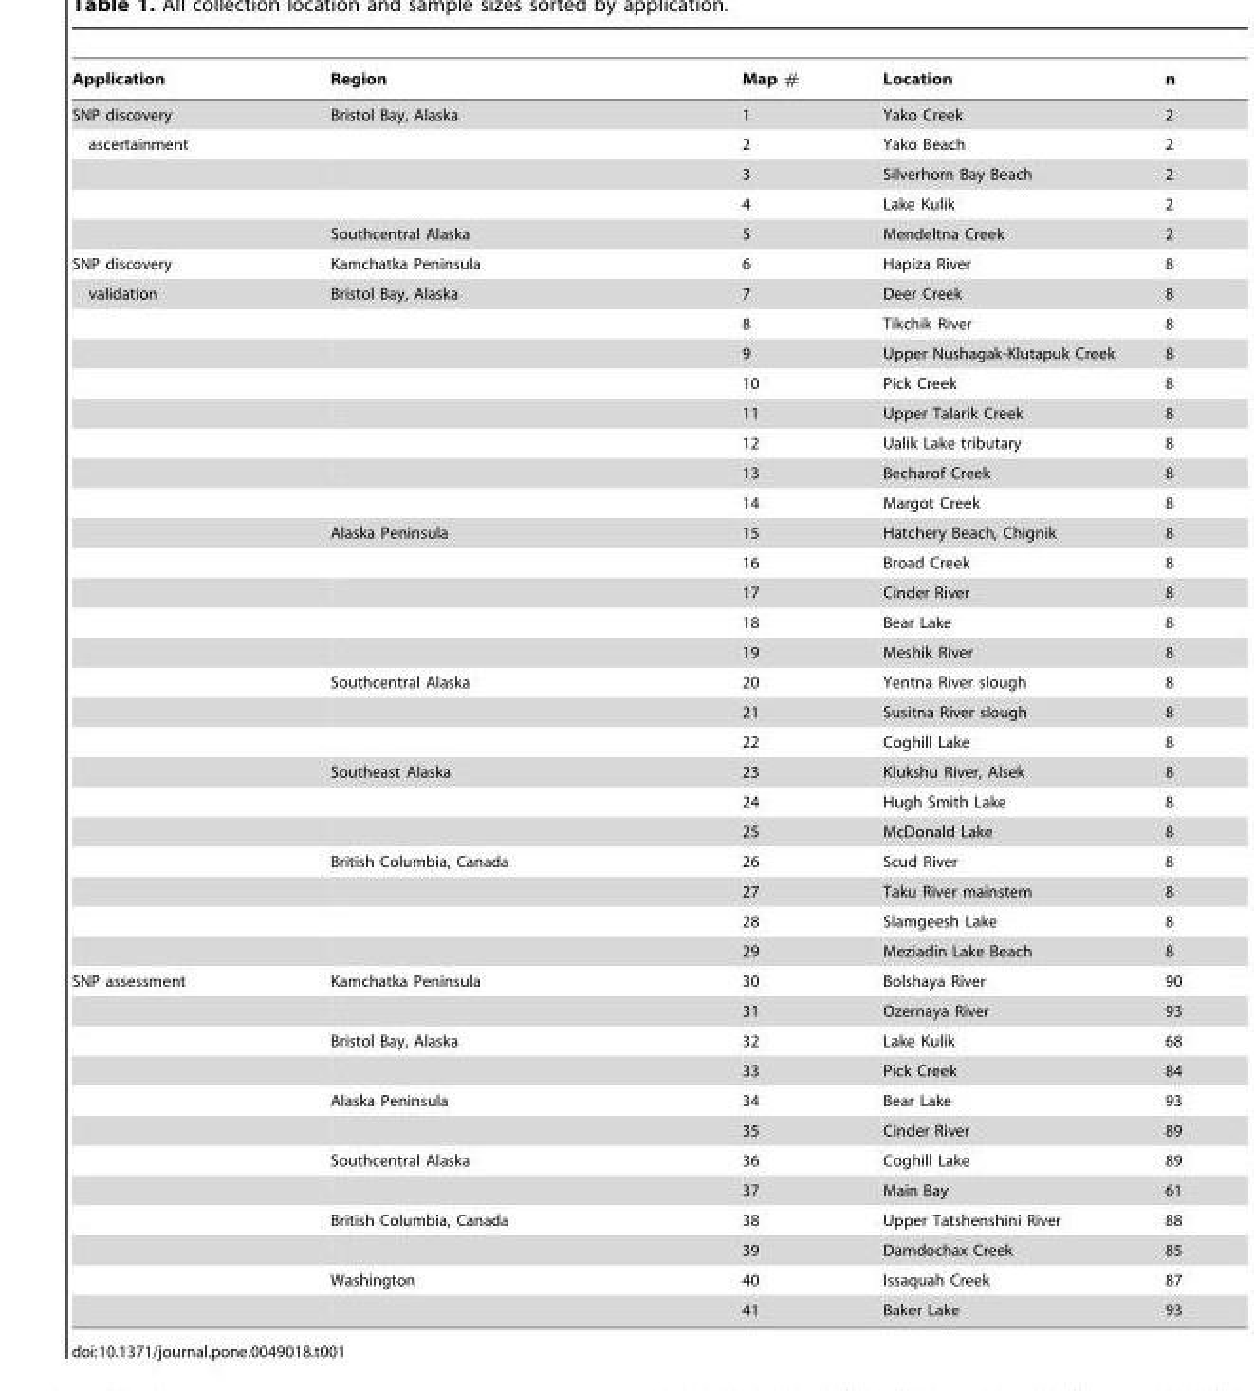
<table><thead><tr><td>Application</td><td>Region</td><td>Map #</td><td>Location</td><td>n</td></tr></thead><tbody><tr><td>SNP discovery</td><td>Bristol Bay, Alaska</td><td>1</td><td>Yako Creek</td><td>2</td></tr><tr><td colspan="2">ascertainment</td><td>2</td><td>Yako Beach</td><td>2</td></tr><tr><td></td><td></td><td>3</td><td>Silverhorn Bay Beach</td><td>2</td></tr><tr><td></td><td></td><td>4</td><td>Lake Kulik</td><td>2</td></tr><tr><td></td><td>Southcentral Alaska</td><td>5</td><td>Mendeltna Creek</td><td>2</td></tr><tr><td>SNP discovery</td><td>Kamchatka Peninsula</td><td>6</td><td>Hapiza River</td><td>8</td></tr><tr><td rowspan="23">validation</td><td>Bristol Bay, Alaska</td><td>7</td><td>Deer Creek</td><td>8</td></tr><tr><td></td><td>8</td><td>Tikchik River</td><td>8</td></tr><tr><td></td><td>9</td><td>Upper Nushagak-Klutapuk Creek</td><td>8</td></tr><tr><td></td><td>10</td><td>Pick Creek</td><td>8</td></tr><tr><td></td><td>11</td><td>Upper Talarik Creek</td><td>8</td></tr><tr><td></td><td>12</td><td>Ualik Lake tributary</td><td>8</td></tr><tr><td></td><td>13</td><td>Becharof Creek</td><td>8</td></tr><tr><td></td><td>14</td><td>Margot Creek</td><td>8</td></tr><tr><td>Alaska Peninsula</td><td>15</td><td>Hatchery Beach, Chignik</td><td>8</td></tr><tr><td></td><td>16</td><td>Broad Creek</td><td>8</td></tr><tr><td></td><td>17</td><td>Cinder River</td><td>8</td></tr><tr><td></td><td>18</td><td>Bear Lake</td><td>8</td></tr><tr><td></td><td>19</td><td>Meshik River</td><td>8</td></tr><tr><td>Southcentral Alaska</td><td>20</td><td>Yentna River slough</td><td>8</td></tr><tr><td></td><td>21</td><td>Susitna River slough</td><td>8</td></tr><tr><td></td><td>22</td><td>Coghill Lake</td><td>8</td></tr><tr><td>Southeast Alaska</td><td>23</td><td>Klukshu River, Alsek</td><td>8</td></tr><tr><td></td><td>24</td><td>Hugh Smith Lake</td><td>8</td></tr><tr><td></td><td>25</td><td>McDonald Lake</td><td>8</td></tr><tr><td>British Columbia, Canada</td><td>26</td><td>Scud River</td><td>8</td></tr><tr><td></td><td>27</td><td>Taku River mainstem</td><td>8</td></tr><tr><td></td><td>28</td><td>Slamgeesh Lake</td><td>8</td></tr><tr><td></td><td>29</td><td>Meziadin Lake Beach</td><td>8</td></tr><tr><td rowspan="12">SNP assessment</td><td>Kamchatka Peninsula</td><td>30</td><td>Bolshaya River</td><td>90</td></tr><tr><td></td><td>31</td><td>Ozernaya River</td><td>93</td></tr><tr><td>Bristol Bay, Alaska</td><td>32</td><td>Lake Kulik</td><td>68</td></tr><tr><td></td><td>33</td><td>Pick Creek</td><td>84</td></tr><tr><td>Alaska Peninsula</td><td>34</td><td>Bear Lake</td><td>93</td></tr><tr><td></td><td>35</td><td>Cinder River</td><td>89</td></tr><tr><td>Southcentral Alaska</td><td>36</td><td>Coghill Lake</td><td>89</td></tr><tr><td></td><td>37</td><td>Main Bay</td><td>61</td></tr><tr><td>British Columbia, Canada</td><td>38</td><td>Upper Tatshenshini River</td><td>88</td></tr><tr><td></td><td>39</td><td>Damdochax Creek</td><td>85</td></tr><tr><td>Washington</td><td>40</td><td>Issaquah Creek</td><td>87</td></tr><tr><td></td><td>41</td><td>Baker Lake</td><td>93</td></tr></tbody></table>